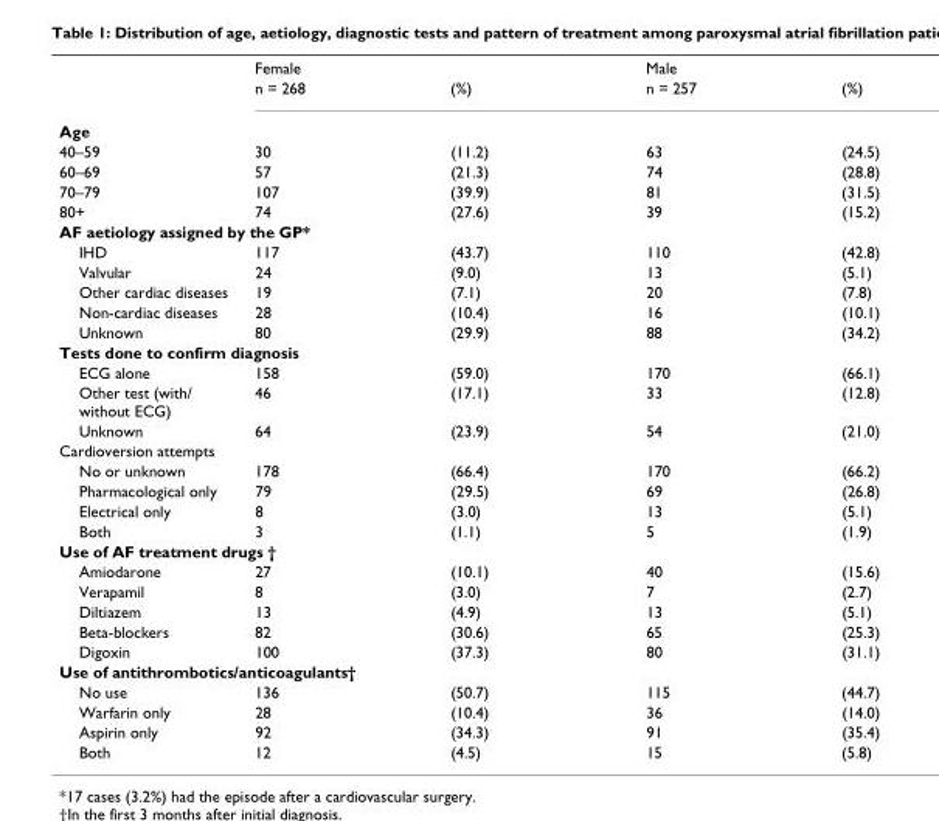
<table><thead><tr><td rowspan="2"></td><td colspan="2">Female</td><td colspan="2">Male</td></tr><tr><td>n = 268</td><td>(%)</td><td>n = 257</td><td>(%)</td></tr></thead><tbody><tr><td colspan="5">Age</td></tr><tr><td>40–59</td><td>30</td><td>(11.2)</td><td>63</td><td>(24.5)</td></tr><tr><td>60–69</td><td>57</td><td>(21.3)</td><td>74</td><td>(28.8)</td></tr><tr><td>70–79</td><td>107</td><td>(39.9)</td><td>81</td><td>(31.5)</td></tr><tr><td>80+</td><td>74</td><td>(27.6)</td><td>39</td><td>(15.2)</td></tr><tr><td colspan="5">AF aetiology assigned by the GP*</td></tr><tr><td>IHD</td><td>117</td><td>(43.7)</td><td>110</td><td>(42.8)</td></tr><tr><td>Valvular</td><td>24</td><td>(9.0)</td><td>13</td><td>(5.1)</td></tr><tr><td>Other cardiac diseases</td><td>19</td><td>(7.1)</td><td>20</td><td>(7.8)</td></tr><tr><td>Non-cardiac diseases</td><td>28</td><td>(10.4)</td><td>16</td><td>(10.1)</td></tr><tr><td>Unknown</td><td>80</td><td>(29.9)</td><td>88</td><td>(34.2)</td></tr><tr><td colspan="5">Tests done to confirm diagnosis</td></tr><tr><td>ECG alone</td><td>158</td><td>(59.0)</td><td>170</td><td>(66.1)</td></tr><tr><td>Other test (with/ without ECG)</td><td>46</td><td>(17.1)</td><td>33</td><td>(12.8)</td></tr><tr><td>Unknown</td><td>64</td><td>(23.9)</td><td>54</td><td>(21.0)</td></tr><tr><td colspan="5">Cardioversion attempts</td></tr><tr><td>No or unknown</td><td>178</td><td>(66.4)</td><td>170</td><td>(66.2)</td></tr><tr><td>Pharmacological only</td><td>79</td><td>(29.5)</td><td>69</td><td>(26.8)</td></tr><tr><td>Electrical only</td><td>8</td><td>(3.0)</td><td>13</td><td>(5.1)</td></tr><tr><td>Both</td><td>3</td><td>(1.1)</td><td>5</td><td>(1.9)</td></tr><tr><td colspan="5">Use of AF treatment drugs †</td></tr><tr><td>Amiodarone</td><td>27</td><td>(10.1)</td><td>40</td><td>(15.6)</td></tr><tr><td>Verapamil</td><td>8</td><td>(3.0)</td><td>7</td><td>(2.7)</td></tr><tr><td>Diltiazem</td><td>13</td><td>(4.9)</td><td>13</td><td>(5.1)</td></tr><tr><td>Beta-blockers</td><td>82</td><td>(30.6)</td><td>65</td><td>(25.3)</td></tr><tr><td>Digoxin</td><td>100</td><td>(37.3)</td><td>80</td><td>(31.1)</td></tr><tr><td colspan="5">Use of antithrombotics/anticoagulants†</td></tr><tr><td>No use</td><td>136</td><td>(50.7)</td><td>115</td><td>(44.7)</td></tr><tr><td>Warfarin only</td><td>28</td><td>(10.4)</td><td>36</td><td>(14.0)</td></tr><tr><td>Aspirin only</td><td>92</td><td>(34.3)</td><td>91</td><td>(35.4)</td></tr><tr><td>Both</td><td>12</td><td>(4.5)</td><td>15</td><td>(5.8)</td></tr></tbody></table>